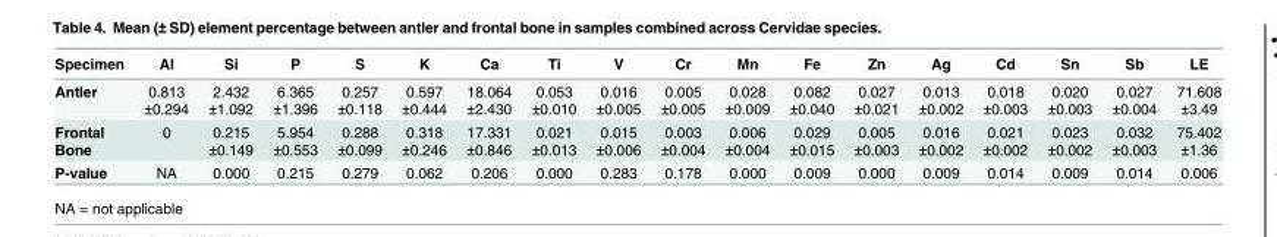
<table><thead><tr><td>Specimen</td><td>Al</td><td>Si</td><td>P</td><td>S</td><td>K</td><td>Ca</td><td>Ti</td><td>V</td><td>Cr</td><td>Mn</td><td>Fe</td><td>Zn</td><td>Ag</td><td>Cd</td><td>Sn</td><td>Sb</td><td>LE</td></tr></thead><tbody><tr><td>Antler</td><td>0.813 ±0.294</td><td>2.432 ±1.092</td><td>6.365 ±1.396</td><td>0.257 ±0.118</td><td>0.597 ±0.444</td><td>18.064 ±2.430</td><td>0.053 ±0.010</td><td>0.016 ±0.005</td><td>0.005 ±0.005</td><td>0.028 ±0.009</td><td>0.082 ±0.040</td><td>0.027 ±0.021</td><td>0.013 ±0.002</td><td>0.018 ±0.003</td><td>0.020 ±0.003</td><td>0.027 ±0.004</td><td>71.608 ±3.49</td></tr><tr><td>Frontal Bone</td><td>0</td><td>0.215 ±0.149</td><td>5.954 ±0.553</td><td>0.288 ±0.099</td><td>0.318 ±0.246</td><td>17.331 ±0.846</td><td>0.021 ±0.013</td><td>0.015 ±0.006</td><td>0.003 ±0.004</td><td>0.006 ±0.004</td><td>0.029 ±0.015</td><td>0.005 ±0.003</td><td>0.016 ±0.002</td><td>0.021 ±0.002</td><td>0.023 ±0.002</td><td>0.032 ±0.003</td><td>75.402 ±1.36</td></tr><tr><td>P-value</td><td>NA</td><td>0.000</td><td>0.215</td><td>0.279</td><td>0.062</td><td>0.206</td><td>0.000</td><td>0.283</td><td>0.178</td><td>0.000</td><td>0.009</td><td>0.000</td><td>0.009</td><td>0.014</td><td>0.009</td><td>0.014</td><td>0.006</td></tr></tbody></table>